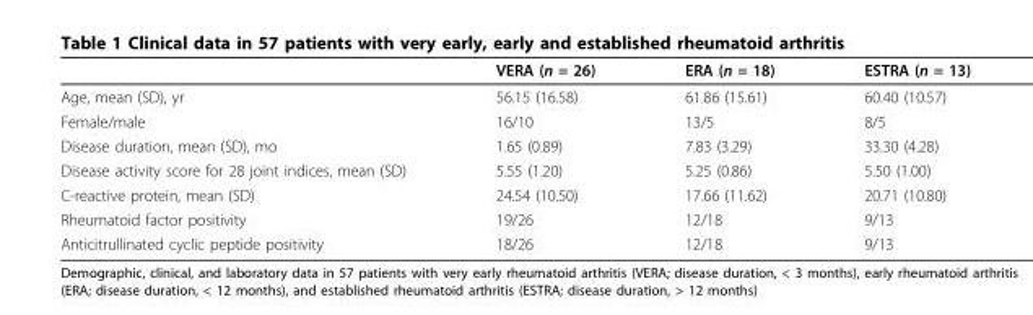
<table><thead><tr><td></td><td>VERA (n = 26)</td><td>ERA (n = 18)</td><td>ESTRA (n = 13)</td></tr></thead><tbody><tr><td>Age, mean (SD), yr</td><td>56.15 (16.58)</td><td>61.86 (15.61)</td><td>60.40 (10.57)</td></tr><tr><td>Female/male</td><td>16/10</td><td>13/5</td><td>8/5</td></tr><tr><td>Disease duration, mean (SD), mo</td><td>1.65 (0.89)</td><td>7.83 (3.29)</td><td>33.30 (4.28)</td></tr><tr><td>Disease activity score for 28 joint indices, mean (SD)</td><td>5.55 (1.20)</td><td>5.25 (0.86)</td><td>5.50 (1.00)</td></tr><tr><td>C-reactive protein, mean (SD)</td><td>24.54 (10.50)</td><td>17.66 (11.62)</td><td>20.71 (10.80)</td></tr><tr><td>Rheumatoid factor positivity</td><td>19/26</td><td>12/18</td><td>9/13</td></tr><tr><td>Anticitrullinated cyclic peptide positivity</td><td>18/26</td><td>12/18</td><td>9/13</td></tr></tbody></table>